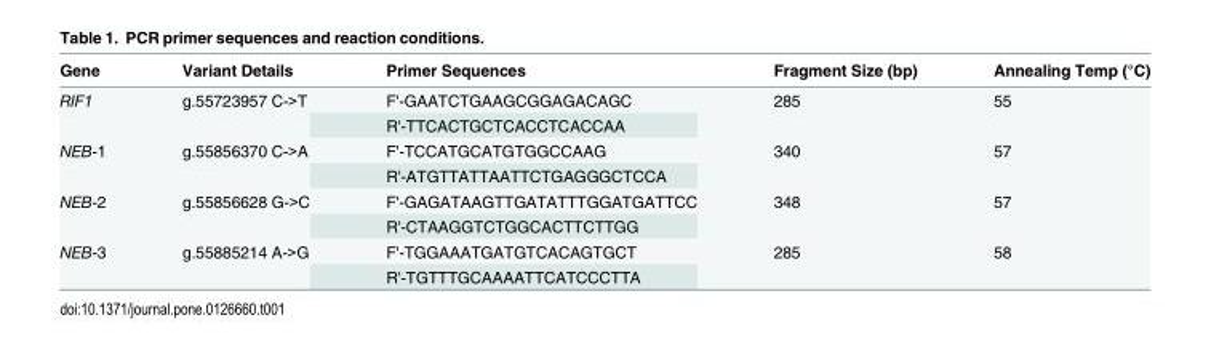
<table><thead><tr><td>Gene</td><td>Variant Details</td><td>Primer Sequences</td><td>Fragment Size (bp)</td><td>Annealing Temp (°C)</td></tr></thead><tbody><tr><td rowspan="2">RIF1</td><td rowspan="2">g.55723957 C-&gt;T</td><td>F&#x27;-GAATCTGAAGCGGAGACAGC</td><td rowspan="2">285</td><td rowspan="2">55</td></tr><tr><td>R&#x27;-TTCACTGCTCACCTCACCAA</td></tr><tr><td rowspan="2">NEB-1</td><td rowspan="2">g.55856370 C-&gt;A</td><td>F&#x27;-TCCATGCATGTGGCCAAG</td><td rowspan="2">340</td><td rowspan="2">57</td></tr><tr><td>R&#x27;-ATGTTATTAATTCTGAGGGCTCCA</td></tr><tr><td rowspan="2">NEB-2</td><td rowspan="2">g.55856628 G-&gt;C</td><td>F&#x27;-GAGATAAGTTGATATTTGGATGATTCC</td><td rowspan="2">348</td><td rowspan="2">57</td></tr><tr><td>R&#x27;-CTAAGGTCTGGCACTTCTTGG</td></tr><tr><td rowspan="2">NEB-3</td><td rowspan="2">g.55885214 A-&gt;G</td><td>F&#x27;-TGGAAATGATGTCACAGTGCT</td><td rowspan="2">285</td><td rowspan="2">58</td></tr><tr><td>R&#x27;-TGTTTGCAAAATTCATCCCTTA</td></tr></tbody></table>